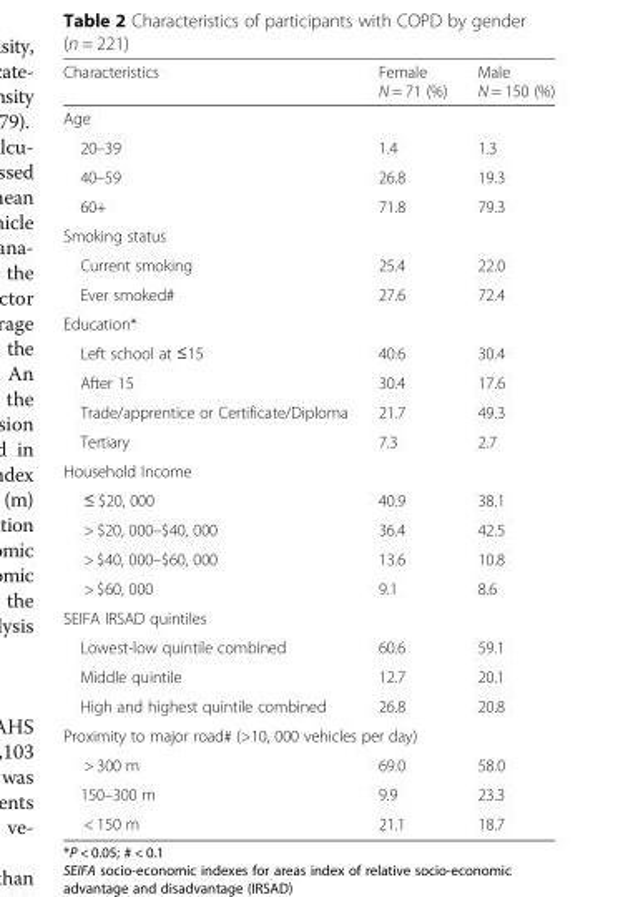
<table><thead><tr><td>Characteristics</td><td>Female N = 71 (%)</td><td>Male N = 150 (%)</td></tr></thead><tbody><tr><td colspan="3">Age</td></tr><tr><td>20–39</td><td>1.4</td><td>1.3</td></tr><tr><td>40–59</td><td>26.8</td><td>19.3</td></tr><tr><td>60+</td><td>71.8</td><td>79.3</td></tr><tr><td colspan="3">Smoking status</td></tr><tr><td>Current smoking</td><td>25.4</td><td>22.0</td></tr><tr><td>Ever smoked#</td><td>27.6</td><td>72.4</td></tr><tr><td colspan="3">Education*</td></tr><tr><td>Left school at ≤15</td><td>40.6</td><td>30.4</td></tr><tr><td>After 15</td><td>30.4</td><td>17.6</td></tr><tr><td>Trade/apprentice or Certificate/Diploma</td><td>21.7</td><td>49.3</td></tr><tr><td>Tertiary</td><td>7.3</td><td>2.7</td></tr><tr><td colspan="3">Household Income</td></tr><tr><td>≤ $20, 000</td><td>40.9</td><td>38.1</td></tr><tr><td>&gt; $20, 000–$40, 000</td><td>36.4</td><td>42.5</td></tr><tr><td>&gt; $40, 000–$60, 000</td><td>13.6</td><td>10.8</td></tr><tr><td>&gt; $60, 000</td><td>9.1</td><td>8.6</td></tr><tr><td colspan="3">SEIFA IRSAD quintiles</td></tr><tr><td>Lowest-low quintile combined</td><td>60.6</td><td>59.1</td></tr><tr><td>Middle quintile</td><td>12.7</td><td>20.1</td></tr><tr><td>High and highest quintile combined</td><td>26.8</td><td>20.8</td></tr><tr><td colspan="3">Proximity to major road# (&gt;10, 000 vehicles per day)</td></tr><tr><td>&gt; 300 m</td><td>69.0</td><td>58.0</td></tr><tr><td>150–300 m</td><td>9.9</td><td>23.3</td></tr><tr><td>&lt; 150 m</td><td>21.1</td><td>18.7</td></tr></tbody></table>